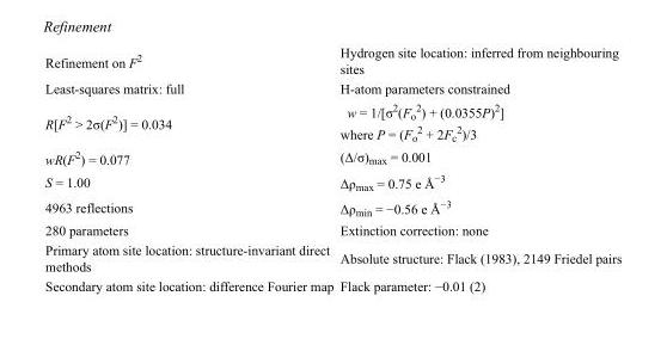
<table><tbody><tr><td>Refinement on F<sup>2</sup></td><td>Hydrogen site location: inferred from neighbouring sites</td></tr><tr><td>Least-squares matrix: full</td><td>H-atom parameters constrained</td></tr><tr><td>R[F<sup>2</sup> &gt; 2σ(F<sup>2</sup>)] = 0.034</td><td>w = 1/[σ<sup>2</sup>(F<sub>o</sub> <sup>2</sup>) + (0.0355P)<sup>2</sup>] where P = (F<sub>o</sub> <sup>2</sup> + 2F<sub>c</sub> <sup>2</sup>)/3</td></tr><tr><td>wR(F<sup>2</sup>) = 0.077</td><td>(Δ/σ)<sub>max</sub> = 0.001</td></tr><tr><td>S = 1.00</td><td>Δρ<sub>max</sub> = 0.75 e Å<sup>−3</sup></td></tr><tr><td>4963 reflections</td><td>Δρ<sub>min</sub> = −0.56 e Å<sup>−3</sup></td></tr><tr><td>280 parameters</td><td>Extinction correction: none</td></tr><tr><td>Primary atom site location: structure-invariant direct methods</td><td>Absolute structure: Flack (1983), 2149 Friedel pairs</td></tr><tr><td>Secondary atom site location: difference Fourier map</td><td>Flack parameter: −0.01 (2)</td></tr></tbody></table>